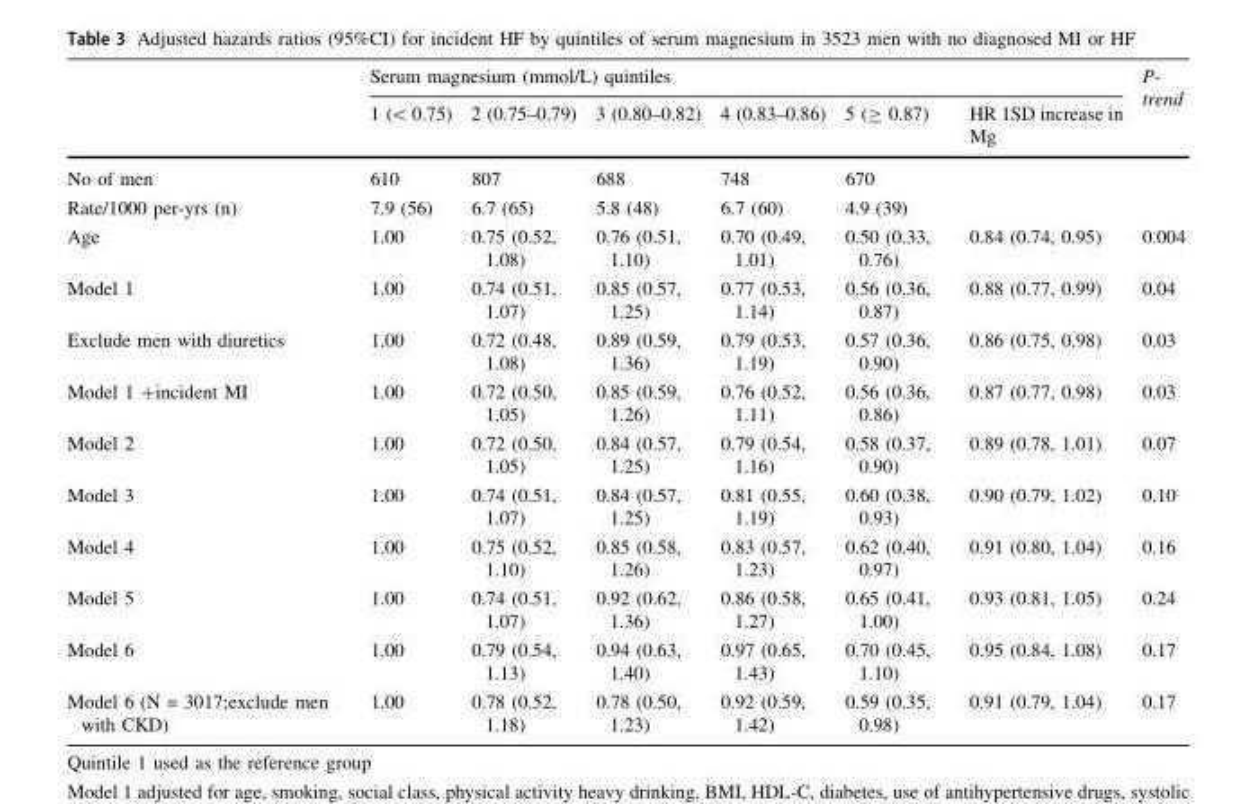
<table><thead><tr><td rowspan="2"></td><td colspan="6">Serum magnesium (mmol/L) quintiles</td><td rowspan="2">P- trend</td></tr><tr><td>1 (&lt; 0.75)</td><td>2 (0.75–0.79)</td><td>3 (0.80–0.82)</td><td>4 (0.83–0.86)</td><td>5 (≥ 0.87)</td><td>HR 1SD increase in Mg</td></tr></thead><tbody><tr><td>No of men</td><td>610</td><td>807</td><td>688</td><td>748</td><td>670</td><td></td><td></td></tr><tr><td>Rate/1000 per-yrs (n)</td><td>7.9 (56)</td><td>6.7 (65)</td><td>5.8 (48)</td><td>6.7 (60)</td><td>4.9 (39)</td><td></td><td></td></tr><tr><td>Age</td><td>1.00</td><td>0.75 (0.52, 1.08)</td><td>0.76 (0.51, 1.10)</td><td>0.70 (0.49, 1.01)</td><td>0.50 (0.33, 0.76)</td><td>0.84 (0.74, 0.95)</td><td>0.004</td></tr><tr><td>Model 1</td><td>1.00</td><td>0.74 (0.51, 1.07)</td><td>0.85 (0.57, 1.25)</td><td>0.77 (0.53, 1.14)</td><td>0.56 (0.36, 0.87)</td><td>0.88 (0.77, 0.99)</td><td>0.04</td></tr><tr><td>Exclude men with diuretics</td><td>1.00</td><td>0.72 (0.48, 1.08)</td><td>0.89 (0.59, 1.36)</td><td>0.79 (0.53, 1.19)</td><td>0.57 (0.36, 0.90)</td><td>0.86 (0.75, 0.98)</td><td>0.03</td></tr><tr><td>Model 1 +incident MI</td><td>1.00</td><td>0.72 (0.50, 1.05)</td><td>0.85 (0.59, 1.26)</td><td>0.76 (0.52, 1.11)</td><td>0.56 (0.36, 0.86)</td><td>0.87 (0.77, 0.98)</td><td>0.03</td></tr><tr><td>Model 2</td><td>1.00</td><td>0.72 (0.50, 1.05)</td><td>0.84 (0.57, 1.25)</td><td>0.79 (0.54, 1.16)</td><td>0.58 (0.37, 0.90)</td><td>0.89 (0.78, 1.01)</td><td>0.07</td></tr><tr><td>Model 3</td><td>1.00</td><td>0.74 (0.51, 1.07)</td><td>0.84 (0.57, 1.25)</td><td>0.81 (0.55, 1.19)</td><td>0.60 (0.38, 0.93)</td><td>0.90 (0.79, 1.02)</td><td>0.10</td></tr><tr><td>Model 4</td><td>1.00</td><td>0.75 (0.52, 1.10)</td><td>0.85 (0.58, 1.26)</td><td>0.83 (0.57, 1.23)</td><td>0.62 (0.40, 0.97)</td><td>0.91 (0.80, 1.04)</td><td>0.16</td></tr><tr><td>Model 5</td><td>1.00</td><td>0.74 (0.51, 1.07)</td><td>0.92 (0.62, 1.36)</td><td>0.86 (0.58, 1.27)</td><td>0.65 (0.41, 1.00)</td><td>0.93 (0.81, 1.05)</td><td>0.24</td></tr><tr><td>Model 6</td><td>1.00</td><td>0.79 (0.54, 1.13)</td><td>0.94 (0.63, 1.40)</td><td>0.97 (0.65, 1.43)</td><td>0.70 (0.45, 1.10)</td><td>0.95 (0.84, 1.08)</td><td>0.17</td></tr><tr><td>Model 6 (N = 3017;exclude men with CKD)</td><td>1.00</td><td>0.78 (0.52, 1.18)</td><td>0.78 (0.50, 1.23)</td><td>0.92 (0.59, 1.42)</td><td>0.59 (0.35, 0.98)</td><td>0.91 (0.79, 1.04)</td><td>0.17</td></tr></tbody></table>